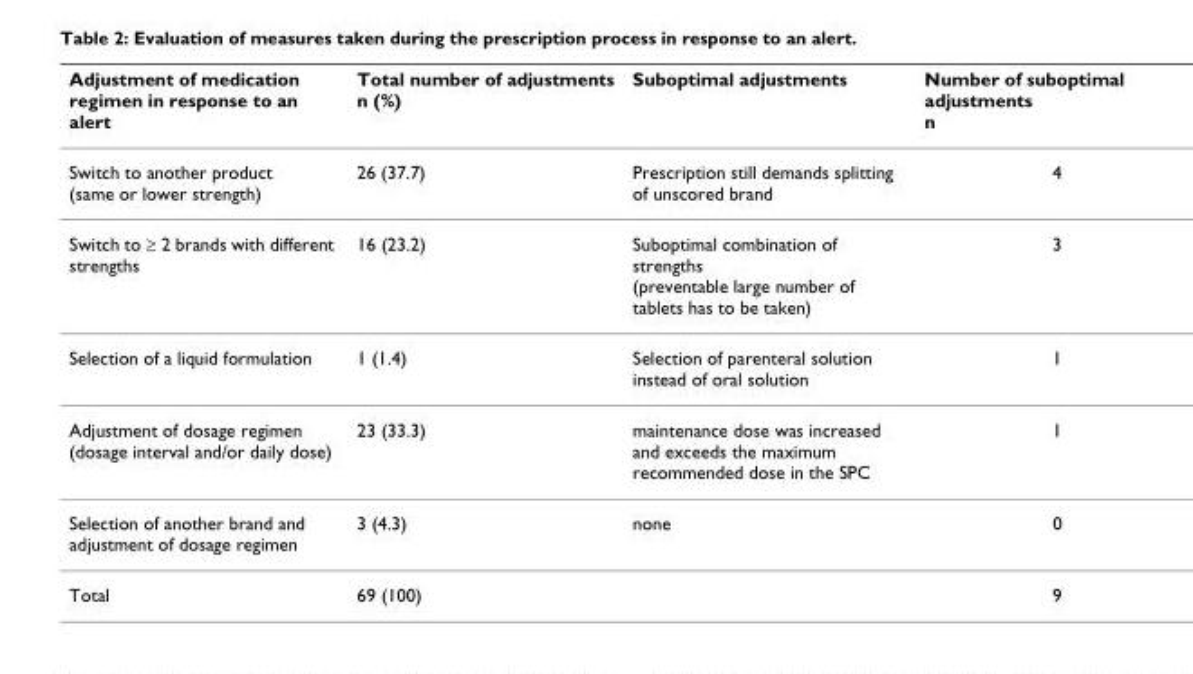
<table><thead><tr><td>Adjustment of medication regimen in response to an alert</td><td>Total number of adjustments n (%)</td><td>Suboptimal adjustments</td><td>Number of suboptimal adjustments n</td></tr></thead><tbody><tr><td>Switch to another product (same or lower strength)</td><td>26 (37.7)</td><td>Prescription still demands splitting of unscored brand</td><td>4</td></tr><tr><td>Switch to ≥ 2 brands with different strengths</td><td>16 (23.2)</td><td>Suboptimal combination of strengths (preventable large number of tablets has to be taken)</td><td>3</td></tr><tr><td>Selection of a liquid formulation</td><td>1 (1.4)</td><td>Selection of parenteral solution instead of oral solution</td><td>1</td></tr><tr><td>Adjustment of dosage regimen (dosage interval and/or daily dose)</td><td>23 (33.3)</td><td>maintenance dose was increased and exceeds the maximum recommended dose in the SPC</td><td>1</td></tr><tr><td>Selection of another brand and adjustment of dosage regimen</td><td>3 (4.3)</td><td>none</td><td>0</td></tr><tr><td>Total</td><td>69 (100)</td><td></td><td>9</td></tr></tbody></table>